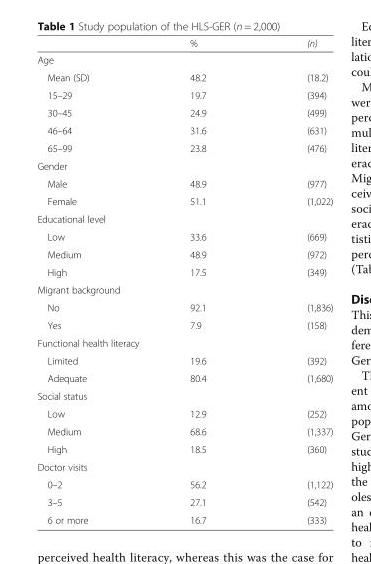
<table><thead><tr><td></td><td>%</td><td>(n)</td></tr></thead><tbody><tr><td colspan="3">Age</td></tr><tr><td>Mean (SD)</td><td>48.2</td><td>(18.2)</td></tr><tr><td>15–29</td><td>19.7</td><td>(394)</td></tr><tr><td>30–45</td><td>24.9</td><td>(499)</td></tr><tr><td>46–64</td><td>31.6</td><td>(631)</td></tr><tr><td>65–99</td><td>23.8</td><td>(476)</td></tr><tr><td colspan="3">Gender</td></tr><tr><td>Male</td><td>48.9</td><td>(977)</td></tr><tr><td>Female</td><td>51.1</td><td>(1,022)</td></tr><tr><td colspan="3">Educational level</td></tr><tr><td>Low</td><td>33.6</td><td>(669)</td></tr><tr><td>Medium</td><td>48.9</td><td>(972)</td></tr><tr><td>High</td><td>17.5</td><td>(349)</td></tr><tr><td colspan="3">Migrant background</td></tr><tr><td>No</td><td>92.1</td><td>(1,836)</td></tr><tr><td>Yes</td><td>7.9</td><td>(158)</td></tr><tr><td colspan="3">Functional health literacy</td></tr><tr><td>Limited</td><td>19.6</td><td>(392)</td></tr><tr><td>Adequate</td><td>80.4</td><td>(1,680)</td></tr><tr><td colspan="3">Social status</td></tr><tr><td>Low</td><td>12.9</td><td>(252)</td></tr><tr><td>Medium</td><td>68.6</td><td>(1,337)</td></tr><tr><td>High</td><td>18.5</td><td>(360)</td></tr><tr><td colspan="3">Doctor visits</td></tr><tr><td>0–2</td><td>56.2</td><td>(1,122)</td></tr><tr><td>3–5</td><td>27.1</td><td>(542)</td></tr><tr><td>6 or more</td><td>16.7</td><td>(333)</td></tr></tbody></table>